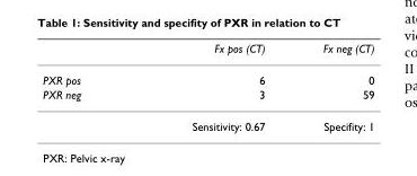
<table><thead><tr><td></td><td>Fx pos (CT)</td><td>Fx neg (CT)</td></tr></thead><tbody><tr><td>PXR pos</td><td>6</td><td>0</td></tr><tr><td rowspan="2">PXR neg</td><td>3</td><td>59</td></tr><tr><td>Sensitivity: 0.67</td><td>Specifity: 1</td></tr></tbody></table>